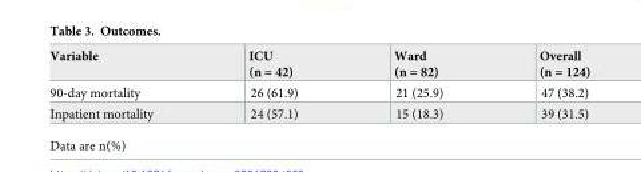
<table><thead><tr><td>Variable</td><td>ICU (n = 42)</td><td>Ward (n = 82)</td><td>Overall (n = 124)</td></tr></thead><tbody><tr><td>90-day mortality</td><td>26 (61.9)</td><td>21 (25.9)</td><td>47 (38.2)</td></tr><tr><td>Inpatient mortality</td><td>24 (57.1)</td><td>15 (18.3)</td><td>39 (31.5)</td></tr></tbody></table>